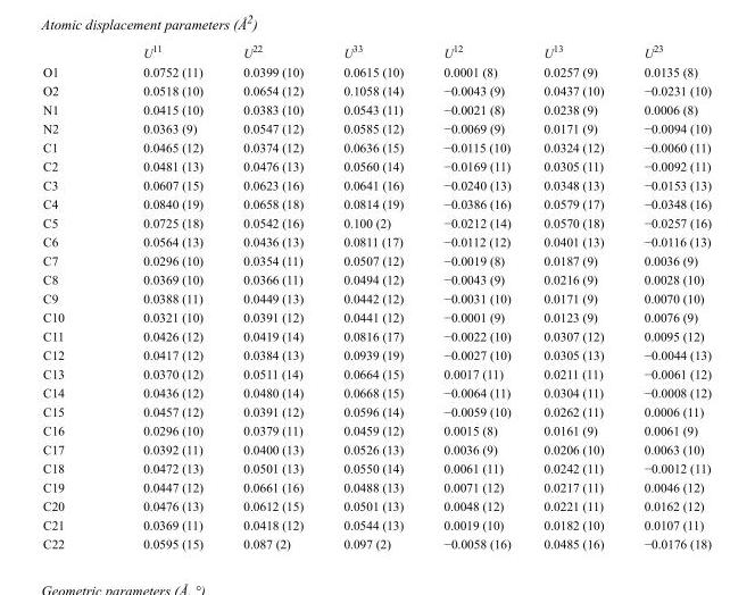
<table><thead><tr><td></td><td>U<sup>11</sup></td><td>U<sup>22</sup></td><td>U<sup>33</sup></td><td>U<sup>12</sup></td><td>U<sup>13</sup></td><td>U<sup>23</sup></td></tr></thead><tbody><tr><td>O1</td><td>0.0752 (11)</td><td>0.0399 (10)</td><td>0.0615 (10)</td><td>0.0001 (8)</td><td>0.0257 (9)</td><td>0.0135 (8)</td></tr><tr><td>O2</td><td>0.0518 (10)</td><td>0.0654 (12)</td><td>0.1058 (14)</td><td>−0.0043 (9)</td><td>0.0437 (10)</td><td>−0.0231 (10)</td></tr><tr><td>N1</td><td>0.0415 (10)</td><td>0.0383 (10)</td><td>0.0543 (11)</td><td>−0.0021 (8)</td><td>0.0238 (9)</td><td>0.0006 (8)</td></tr><tr><td>N2</td><td>0.0363 (9)</td><td>0.0547 (12)</td><td>0.0585 (12)</td><td>−0.0069 (9)</td><td>0.0171 (9)</td><td>−0.0094 (10)</td></tr><tr><td>C1</td><td>0.0465 (12)</td><td>0.0374 (12)</td><td>0.0636 (15)</td><td>−0.0115 (10)</td><td>0.0324 (12)</td><td>−0.0060 (11)</td></tr><tr><td>C2</td><td>0.0481 (13)</td><td>0.0476 (13)</td><td>0.0560 (14)</td><td>−0.0169 (11)</td><td>0.0305 (11)</td><td>−0.0092 (11)</td></tr><tr><td>C3</td><td>0.0607 (15)</td><td>0.0623 (16)</td><td>0.0641 (16)</td><td>−0.0240 (13)</td><td>0.0348 (13)</td><td>−0.0153 (13)</td></tr><tr><td>C4</td><td>0.0840 (19)</td><td>0.0658 (18)</td><td>0.0814 (19)</td><td>−0.0386 (16)</td><td>0.0579 (17)</td><td>−0.0348 (16)</td></tr><tr><td>C5</td><td>0.0725 (18)</td><td>0.0542 (16)</td><td>0.100 (2)</td><td>−0.0212 (14)</td><td>0.0570 (18)</td><td>−0.0257 (16)</td></tr><tr><td>C6</td><td>0.0564 (13)</td><td>0.0436 (13)</td><td>0.0811 (17)</td><td>−0.0112 (12)</td><td>0.0401 (13)</td><td>−0.0116 (13)</td></tr><tr><td>C7</td><td>0.0296 (10)</td><td>0.0354 (11)</td><td>0.0507 (12)</td><td>−0.0019 (8)</td><td>0.0187 (9)</td><td>0.0036 (9)</td></tr><tr><td>C8</td><td>0.0369 (10)</td><td>0.0366 (11)</td><td>0.0494 (12)</td><td>−0.0043 (9)</td><td>0.0216 (9)</td><td>0.0028 (10)</td></tr><tr><td>C9</td><td>0.0388 (11)</td><td>0.0449 (13)</td><td>0.0442 (12)</td><td>−0.0031 (10)</td><td>0.0171 (9)</td><td>0.0070 (10)</td></tr><tr><td>C10</td><td>0.0321 (10)</td><td>0.0391 (12)</td><td>0.0441 (12)</td><td>−0.0001 (9)</td><td>0.0123 (9)</td><td>0.0076 (9)</td></tr><tr><td>C11</td><td>0.0426 (12)</td><td>0.0419 (14)</td><td>0.0816 (17)</td><td>−0.0022 (10)</td><td>0.0307 (12)</td><td>0.0095 (12)</td></tr><tr><td>C12</td><td>0.0417 (12)</td><td>0.0384 (13)</td><td>0.0939 (19)</td><td>−0.0027 (10)</td><td>0.0305 (13)</td><td>−0.0044 (13)</td></tr><tr><td>C13</td><td>0.0370 (12)</td><td>0.0511 (14)</td><td>0.0664 (15)</td><td>0.0017 (11)</td><td>0.0211 (11)</td><td>−0.0061 (12)</td></tr><tr><td>C14</td><td>0.0436 (12)</td><td>0.0480 (14)</td><td>0.0668 (15)</td><td>−0.0064 (11)</td><td>0.0304 (11)</td><td>−0.0008 (12)</td></tr><tr><td>C15</td><td>0.0457 (12)</td><td>0.0391 (12)</td><td>0.0596 (14)</td><td>−0.0059 (10)</td><td>0.0262 (11)</td><td>0.0006 (11)</td></tr><tr><td>C16</td><td>0.0296 (10)</td><td>0.0379 (11)</td><td>0.0459 (12)</td><td>0.0015 (8)</td><td>0.0161 (9)</td><td>0.0061 (9)</td></tr><tr><td>C17</td><td>0.0392 (11)</td><td>0.0400 (13)</td><td>0.0526 (13)</td><td>0.0036 (9)</td><td>0.0206 (10)</td><td>0.0063 (10)</td></tr><tr><td>C18</td><td>0.0472 (13)</td><td>0.0501 (13)</td><td>0.0550 (14)</td><td>0.0061 (11)</td><td>0.0242 (11)</td><td>−0.0012 (11)</td></tr><tr><td>C19</td><td>0.0447 (12)</td><td>0.0661 (16)</td><td>0.0488 (13)</td><td>0.0071 (12)</td><td>0.0217 (11)</td><td>0.0046 (12)</td></tr><tr><td>C20</td><td>0.0476 (13)</td><td>0.0612 (15)</td><td>0.0501 (13)</td><td>0.0048 (12)</td><td>0.0221 (11)</td><td>0.0162 (12)</td></tr><tr><td>C21</td><td>0.0369 (11)</td><td>0.0418 (12)</td><td>0.0544 (13)</td><td>0.0019 (10)</td><td>0.0182 (10)</td><td>0.0107 (11)</td></tr><tr><td>C22</td><td>0.0595 (15)</td><td>0.087 (2)</td><td>0.097 (2)</td><td>−0.0058 (16)</td><td>0.0485 (16)</td><td>−0.0176 (18)</td></tr></tbody></table>